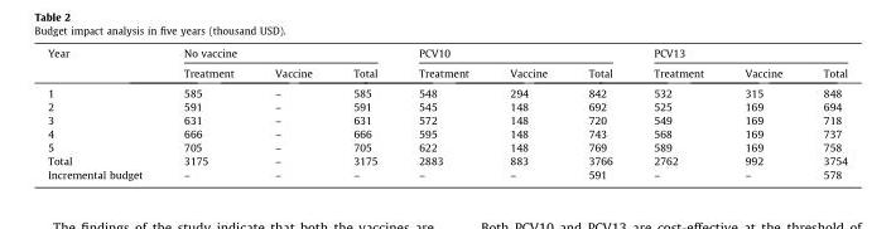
<table><thead><tr><td rowspan="2">Year</td><td colspan="3">No vaccine</td><td colspan="3">PCV10</td><td colspan="3">PCV13</td></tr><tr><td>Treatment</td><td>Vaccine</td><td>Total</td><td>Treatment</td><td>Vaccine</td><td>Total</td><td>Treatment</td><td>Vaccine</td><td>Total</td></tr></thead><tbody><tr><td>1</td><td>585</td><td>–</td><td>585</td><td>548</td><td>294</td><td>842</td><td>532</td><td>315</td><td>848</td></tr><tr><td>2</td><td>591</td><td>–</td><td>591</td><td>545</td><td>148</td><td>692</td><td>525</td><td>169</td><td>694</td></tr><tr><td>3</td><td>631</td><td>–</td><td>631</td><td>572</td><td>148</td><td>720</td><td>549</td><td>169</td><td>718</td></tr><tr><td>4</td><td>666</td><td>–</td><td>666</td><td>595</td><td>148</td><td>743</td><td>568</td><td>169</td><td>737</td></tr><tr><td>5</td><td>705</td><td>–</td><td>705</td><td>622</td><td>148</td><td>769</td><td>589</td><td>169</td><td>758</td></tr><tr><td>Total</td><td>3175</td><td>–</td><td>3175</td><td>2883</td><td>883</td><td>3766</td><td>2762</td><td>992</td><td>3754</td></tr><tr><td>Incremental budget</td><td>–</td><td>–</td><td>–</td><td>–</td><td>–</td><td>591</td><td>–</td><td>–</td><td>578</td></tr></tbody></table>